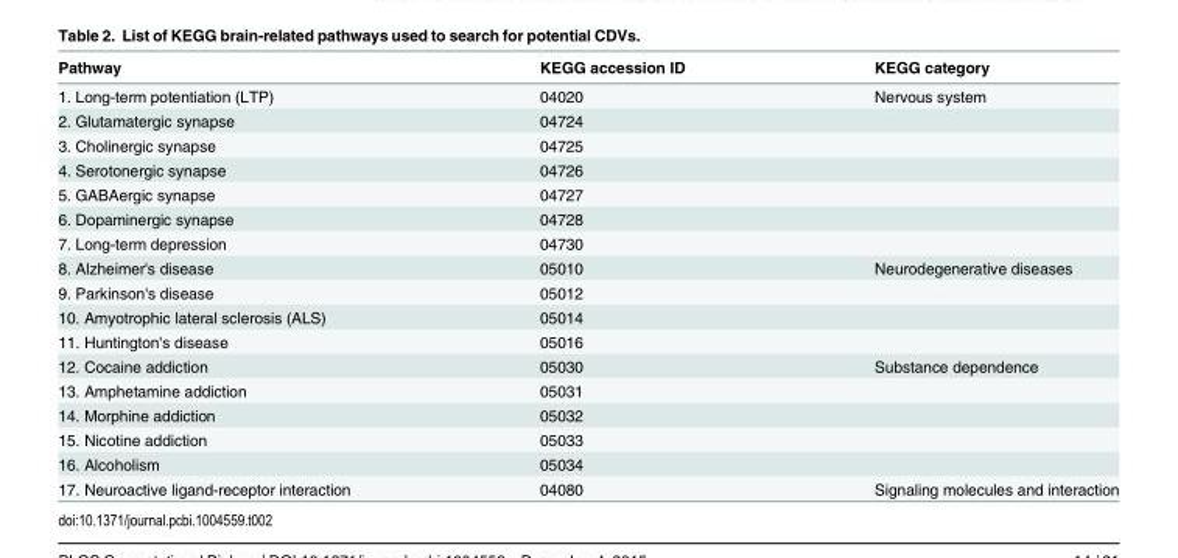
<table><thead><tr><td>Pathway</td><td>KEGG accession ID</td><td>KEGG category</td></tr></thead><tbody><tr><td>1. Long-term potentiation (LTP)</td><td>04020</td><td>Nervous system</td></tr><tr><td>2. Glutamatergic synapse</td><td>04724</td><td></td></tr><tr><td>3. Cholinergic synapse</td><td>04725</td><td></td></tr><tr><td>4. Serotonergic synapse</td><td>04726</td><td></td></tr><tr><td>5. GABAergic synapse</td><td>04727</td><td></td></tr><tr><td>6. Dopaminergic synapse</td><td>04728</td><td></td></tr><tr><td>7. Long-term depression</td><td>04730</td><td></td></tr><tr><td>8. Alzheimer&#x27;s disease</td><td>05010</td><td>Neurodegenerative diseases</td></tr><tr><td>9. Parkinson&#x27;s disease</td><td>05012</td><td></td></tr><tr><td>10. Amyotrophic lateral sclerosis (ALS)</td><td>05014</td><td></td></tr><tr><td>11. Huntington&#x27;s disease</td><td>05016</td><td></td></tr><tr><td>12. Cocaine addiction</td><td>05030</td><td>Substance dependence</td></tr><tr><td>13. Amphetamine addiction</td><td>05031</td><td></td></tr><tr><td>14. Morphine addiction</td><td>05032</td><td></td></tr><tr><td>15. Nicotine addiction</td><td>05033</td><td></td></tr><tr><td>16. Alcoholism</td><td>05034</td><td></td></tr><tr><td>17. Neuroactive ligand-receptor interaction</td><td>04080</td><td>Signaling molecules and interaction</td></tr></tbody></table>